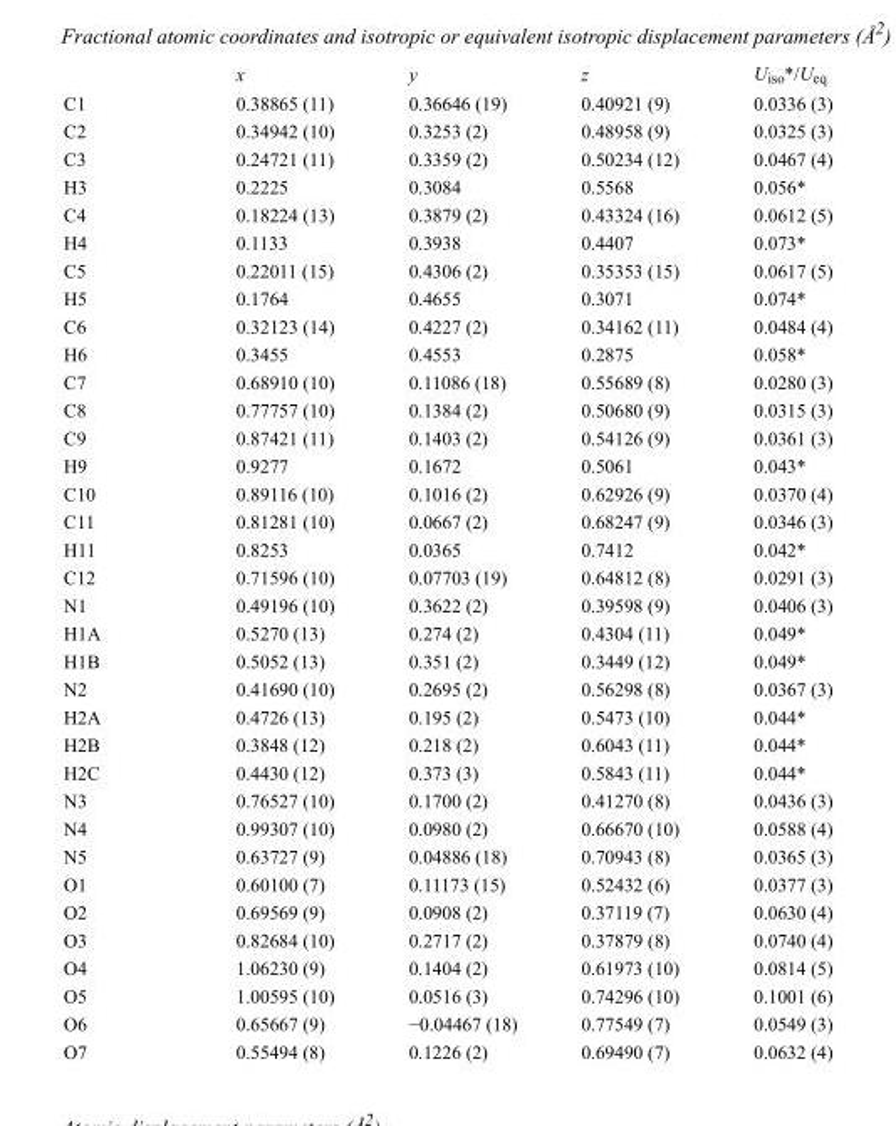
<table><thead><tr><td></td><td>x</td><td>y</td><td>z</td><td>U<sub>iso</sub>*/U<sub>eq</sub></td></tr></thead><tbody><tr><td>C1</td><td>0.38865 (11)</td><td>0.36646 (19)</td><td>0.40921 (9)</td><td>0.0336 (3)</td></tr><tr><td>C2</td><td>0.34942 (10)</td><td>0.3253 (2)</td><td>0.48958 (9)</td><td>0.0325 (3)</td></tr><tr><td>C3</td><td>0.24721 (11)</td><td>0.3359 (2)</td><td>0.50234 (12)</td><td>0.0467 (4)</td></tr><tr><td>H3</td><td>0.2225</td><td>0.3084</td><td>0.5568</td><td>0.056*</td></tr><tr><td>C4</td><td>0.18224 (13)</td><td>0.3879 (2)</td><td>0.43324 (16)</td><td>0.0612 (5)</td></tr><tr><td>H4</td><td>0.1133</td><td>0.3938</td><td>0.4407</td><td>0.073*</td></tr><tr><td>C5</td><td>0.22011 (15)</td><td>0.4306 (2)</td><td>0.35353 (15)</td><td>0.0617 (5)</td></tr><tr><td>H5</td><td>0.1764</td><td>0.4655</td><td>0.3071</td><td>0.074*</td></tr><tr><td>C6</td><td>0.32123 (14)</td><td>0.4227 (2)</td><td>0.34162 (11)</td><td>0.0484 (4)</td></tr><tr><td>H6</td><td>0.3455</td><td>0.4553</td><td>0.2875</td><td>0.058*</td></tr><tr><td>C7</td><td>0.68910 (10)</td><td>0.11086 (18)</td><td>0.55689 (8)</td><td>0.0280 (3)</td></tr><tr><td>C8</td><td>0.77757 (10)</td><td>0.1384 (2)</td><td>0.50680 (9)</td><td>0.0315 (3)</td></tr><tr><td>C9</td><td>0.87421 (11)</td><td>0.1403 (2)</td><td>0.54126 (9)</td><td>0.0361 (3)</td></tr><tr><td>H9</td><td>0.9277</td><td>0.1672</td><td>0.5061</td><td>0.043*</td></tr><tr><td>C10</td><td>0.89116 (10)</td><td>0.1016 (2)</td><td>0.62926 (9)</td><td>0.0370 (4)</td></tr><tr><td>C11</td><td>0.81281 (10)</td><td>0.0667 (2)</td><td>0.68247 (9)</td><td>0.0346 (3)</td></tr><tr><td>H11</td><td>0.8253</td><td>0.0365</td><td>0.7412</td><td>0.042*</td></tr><tr><td>C12</td><td>0.71596 (10)</td><td>0.07703 (19)</td><td>0.64812 (8)</td><td>0.0291 (3)</td></tr><tr><td>N1</td><td>0.49196 (10)</td><td>0.3622 (2)</td><td>0.39598 (9)</td><td>0.0406 (3)</td></tr><tr><td>H1A</td><td>0.5270 (13)</td><td>0.274 (2)</td><td>0.4304 (11)</td><td>0.049*</td></tr><tr><td>H1B</td><td>0.5052 (13)</td><td>0.351 (2)</td><td>0.3449 (12)</td><td>0.049*</td></tr><tr><td>N2</td><td>0.41690 (10)</td><td>0.2695 (2)</td><td>0.56298 (8)</td><td>0.0367 (3)</td></tr><tr><td>H2A</td><td>0.4726 (13)</td><td>0.195 (2)</td><td>0.5473 (10)</td><td>0.044*</td></tr><tr><td>H2B</td><td>0.3848 (12)</td><td>0.218 (2)</td><td>0.6043 (11)</td><td>0.044*</td></tr><tr><td>H2C</td><td>0.4430 (12)</td><td>0.373 (3)</td><td>0.5843 (11)</td><td>0.044*</td></tr><tr><td>N3</td><td>0.76527 (10)</td><td>0.1700 (2)</td><td>0.41270 (8)</td><td>0.0436 (3)</td></tr><tr><td>N4</td><td>0.99307 (10)</td><td>0.0980 (2)</td><td>0.66670 (10)</td><td>0.0588 (4)</td></tr><tr><td>N5</td><td>0.63727 (9)</td><td>0.04886 (18)</td><td>0.70943 (8)</td><td>0.0365 (3)</td></tr><tr><td>O1</td><td>0.60100 (7)</td><td>0.11173 (15)</td><td>0.52432 (6)</td><td>0.0377 (3)</td></tr><tr><td>O2</td><td>0.69569 (9)</td><td>0.0908 (2)</td><td>0.37119 (7)</td><td>0.0630 (4)</td></tr><tr><td>O3</td><td>0.82684 (10)</td><td>0.2717 (2)</td><td>0.37879 (8)</td><td>0.0740 (4)</td></tr><tr><td>O4</td><td>1.06230 (9)</td><td>0.1404 (2)</td><td>0.61973 (10)</td><td>0.0814 (5)</td></tr><tr><td>O5</td><td>1.00595 (10)</td><td>0.0516 (3)</td><td>0.74296 (10)</td><td>0.1001 (6)</td></tr><tr><td>O6</td><td>0.65667 (9)</td><td>−0.04467 (18)</td><td>0.77549 (7)</td><td>0.0549 (3)</td></tr><tr><td>O7</td><td>0.55494 (8)</td><td>0.1226 (2)</td><td>0.69490 (7)</td><td>0.0632 (4)</td></tr></tbody></table>